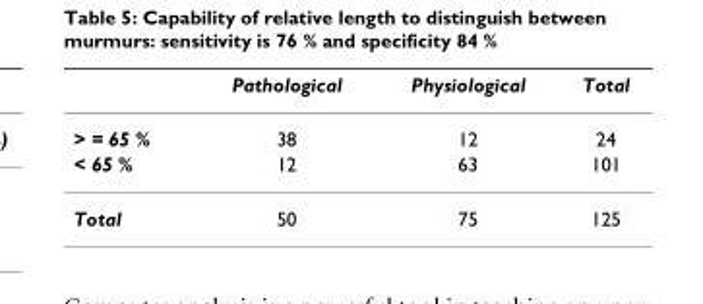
<table><thead><tr><td></td><td>Pathological</td><td>Physiological</td><td>Total</td></tr></thead><tbody><tr><td>&gt; = 65 %</td><td>38</td><td>12</td><td>24</td></tr><tr><td>&lt; 65 %</td><td>12</td><td>63</td><td>101</td></tr><tr><td>Total</td><td>50</td><td>75</td><td>125</td></tr></tbody></table>